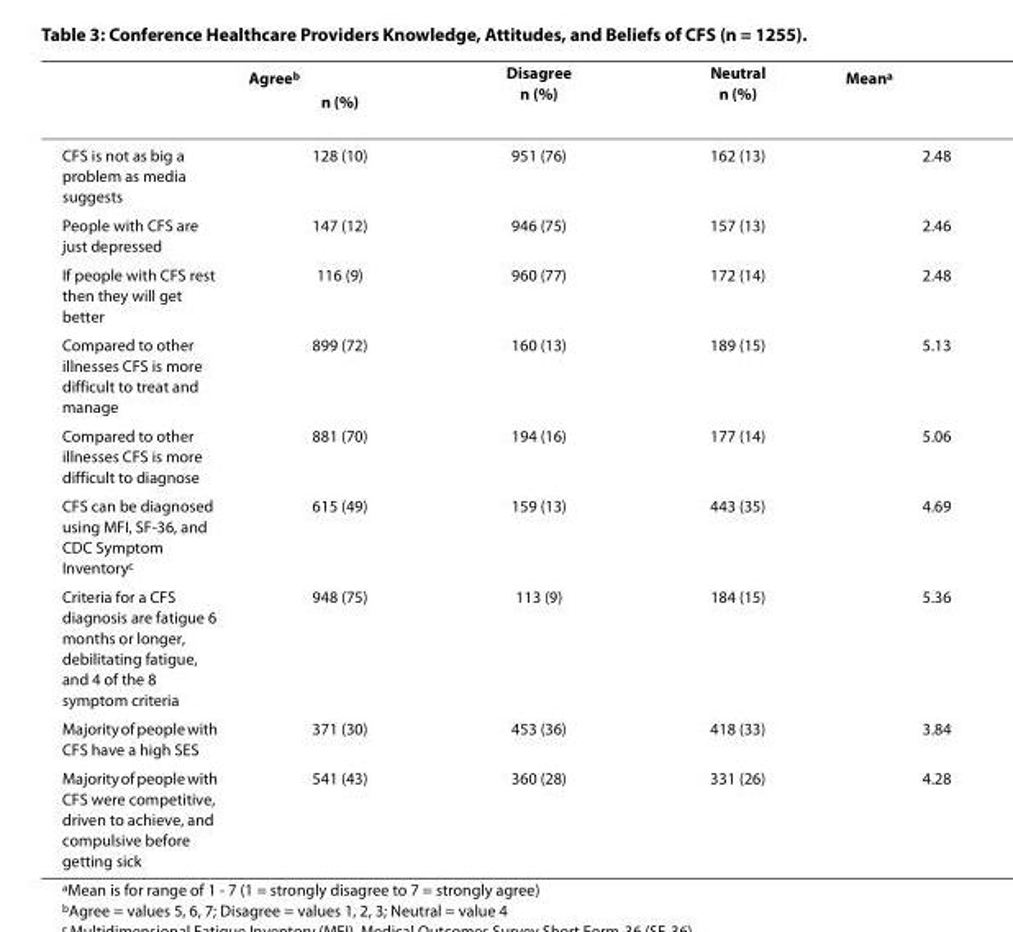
<table><thead><tr><td></td><td>Agree<sup>b</sup> n (%)</td><td>Disagree n (%)</td><td>Neutral n (%)</td><td>Mean<sup>a</sup></td></tr></thead><tbody><tr><td>CFS is not as big a problem as media suggests</td><td>128 (10)</td><td>951 (76)</td><td>162 (13)</td><td>2.48</td></tr><tr><td>People with CFS are just depressed</td><td>147 (12)</td><td>946 (75)</td><td>157 (13)</td><td>2.46</td></tr><tr><td>If people with CFS rest then they will get better</td><td>116 (9)</td><td>960 (77)</td><td>172 (14)</td><td>2.48</td></tr><tr><td>Compared to other illnesses CFS is more difficult to treat and manage</td><td>899 (72)</td><td>160 (13)</td><td>189 (15)</td><td>5.13</td></tr><tr><td>Compared to other illnesses CFS is more difficult to diagnose</td><td>881 (70)</td><td>194 (16)</td><td>177 (14)</td><td>5.06</td></tr><tr><td>CFS can be diagnosed using MFI, SF-36, and CDC Symptom Inventory<sup>c</sup></td><td>615 (49)</td><td>159 (13)</td><td>443 (35)</td><td>4.69</td></tr><tr><td>Criteria for a CFS diagnosis are fatigue 6 months or longer, debilitating fatigue, and 4 of the 8 symptom criteria</td><td>948 (75)</td><td>113 (9)</td><td>184 (15)</td><td>5.36</td></tr><tr><td>Majority of people with CFS have a high SES</td><td>371 (30)</td><td>453 (36)</td><td>418 (33)</td><td>3.84</td></tr><tr><td>Majority of people with CFS were competitive, driven to achieve, and compulsive before getting sick</td><td>541 (43)</td><td>360 (28)</td><td>331 (26)</td><td>4.28</td></tr></tbody></table>